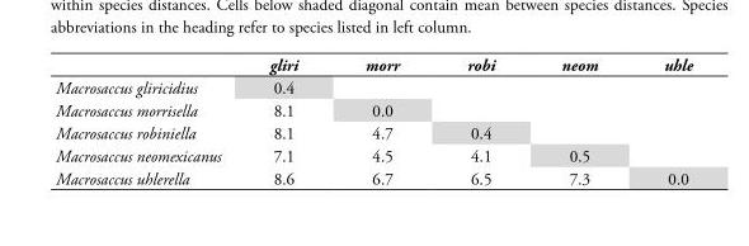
<table><thead><tr><td></td><td>gliri</td><td>morr</td><td>robi</td><td>neom</td><td>uhle</td></tr></thead><tbody><tr><td>Macrosaccus gliricidius</td><td>0.4</td><td></td><td></td><td></td><td></td></tr><tr><td>Macrosaccus morrisella</td><td>8.1</td><td>0.0</td><td></td><td></td><td></td></tr><tr><td>Macrosaccus robiniella</td><td>8.1</td><td>4.7</td><td>0.4</td><td></td><td></td></tr><tr><td>Macrosaccus neomexicanus</td><td>7.1</td><td>4.5</td><td>4.1</td><td>0.5</td><td></td></tr><tr><td>Macrosaccus uhlerella</td><td>8.6</td><td>6.7</td><td>6.5</td><td>7.3</td><td>0.0</td></tr></tbody></table>